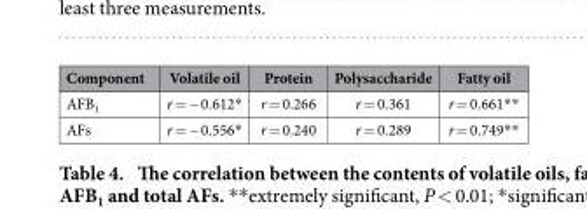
<table><thead><tr><td>Component</td><td>Volatile oil</td><td>Protein</td><td>Polysaccharide</td><td>Fatty oil</td></tr></thead><tbody><tr><td>AFB<sub>1</sub></td><td>r = − 0.612*</td><td>r = 0.266</td><td>r = 0.361</td><td>r = 0.661**</td></tr><tr><td>AFs</td><td>r = − 0.556*</td><td>r = 0.240</td><td>r = 0.289</td><td>r = 0.749**</td></tr></tbody></table>